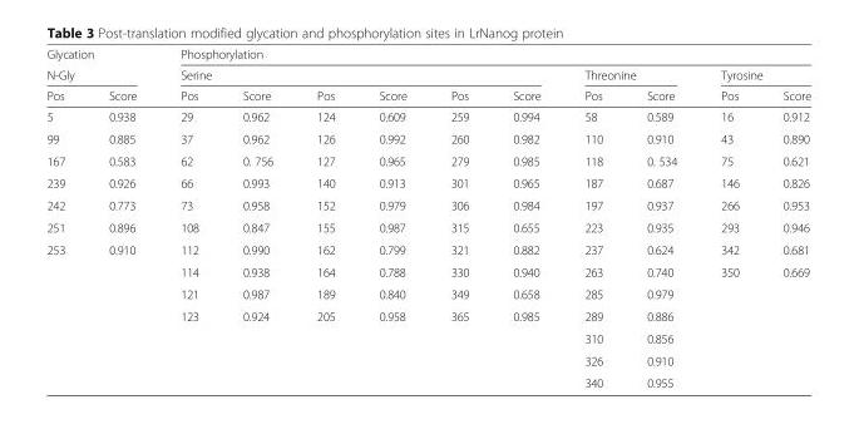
<table><thead><tr><td rowspan="2" colspan="2">Glycation N-Gly</td><td colspan="10">Phosphorylation</td></tr><tr><td colspan="6">Serine</td><td colspan="2">Threonine</td><td colspan="2">Tyrosine</td></tr><tr><td>Pos</td><td>Score</td><td>Pos</td><td>Score</td><td>Pos</td><td>Score</td><td>Pos</td><td>Score</td><td>Pos</td><td>Score</td><td>Pos</td><td>Score</td></tr></thead><tbody><tr><td>5</td><td>0.938</td><td>29</td><td>0.962</td><td>124</td><td>0.609</td><td>259</td><td>0.994</td><td>58</td><td>0.589</td><td>16</td><td>0.912</td></tr><tr><td>99</td><td>0.885</td><td>37</td><td>0.962</td><td>126</td><td>0.992</td><td>260</td><td>0.982</td><td>110</td><td>0.910</td><td>43</td><td>0.890</td></tr><tr><td>167</td><td>0.583</td><td>62</td><td>0. 756</td><td>127</td><td>0.965</td><td>279</td><td>0.985</td><td>118</td><td>0. 534</td><td>75</td><td>0.621</td></tr><tr><td>239</td><td>0.926</td><td>66</td><td>0.993</td><td>140</td><td>0.913</td><td>301</td><td>0.965</td><td>187</td><td>0.687</td><td>146</td><td>0.826</td></tr><tr><td>242</td><td>0.773</td><td>73</td><td>0.958</td><td>152</td><td>0.979</td><td>306</td><td>0.984</td><td>197</td><td>0.937</td><td>266</td><td>0.953</td></tr><tr><td>251</td><td>0.896</td><td>108</td><td>0.847</td><td>155</td><td>0.987</td><td>315</td><td>0.655</td><td>223</td><td>0.935</td><td>293</td><td>0.946</td></tr><tr><td rowspan="7">253</td><td>0.910</td><td>112</td><td>0.990</td><td>162</td><td>0.799</td><td>321</td><td>0.882</td><td>237</td><td>0.624</td><td>342</td><td>0.681</td></tr><tr><td></td><td>114</td><td>0.938</td><td>164</td><td>0.788</td><td>330</td><td>0.940</td><td>263</td><td>0.740</td><td>350</td><td>0.669</td></tr><tr><td></td><td>121</td><td>0.987</td><td>189</td><td>0.840</td><td>349</td><td>0.658</td><td>285</td><td>0.979</td><td></td><td></td></tr><tr><td></td><td>123</td><td>0.924</td><td>205</td><td>0.958</td><td>365</td><td>0.985</td><td>289</td><td>0.886</td><td></td><td></td></tr><tr><td></td><td></td><td></td><td></td><td></td><td></td><td></td><td>310</td><td>0.856</td><td></td><td></td></tr><tr><td></td><td></td><td></td><td></td><td></td><td></td><td></td><td>326</td><td>0.910</td><td></td><td></td></tr><tr><td></td><td></td><td></td><td></td><td></td><td></td><td></td><td>340</td><td>0.955</td><td></td><td></td></tr></tbody></table>